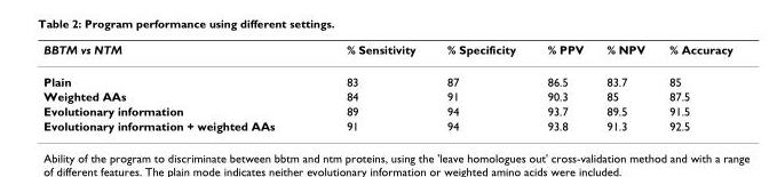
<table><thead><tr><td>BBTM vs NTM</td><td>% Sensitivity</td><td>% Specificity</td><td>% PPV</td><td>% NPV</td><td>% Accuracy</td></tr></thead><tbody><tr><td>Plain</td><td>83</td><td>87</td><td>86.5</td><td>83.7</td><td>85</td></tr><tr><td>Weighted AAs</td><td>84</td><td>91</td><td>90.3</td><td>85</td><td>87.5</td></tr><tr><td>Evolutionary information</td><td>89</td><td>94</td><td>93.7</td><td>89.5</td><td>91.5</td></tr><tr><td>Evolutionary information + weighted AAs</td><td>91</td><td>94</td><td>93.8</td><td>91.3</td><td>92.5</td></tr></tbody></table>